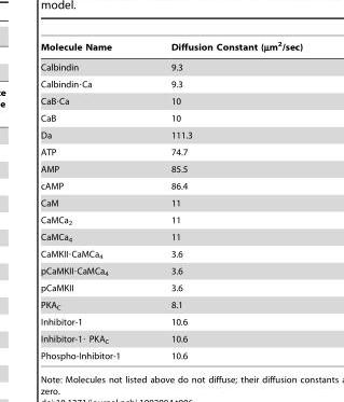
<table><thead><tr><td>Molecule Name</td><td>Diffusion Constant (µm<sup>2</sup>/sec)</td></tr></thead><tbody><tr><td>Calbindin</td><td>9.3</td></tr><tr><td>Calbindin·Ca</td><td>9.3</td></tr><tr><td>CaB·Ca</td><td>10</td></tr><tr><td>CaB</td><td>10</td></tr><tr><td>Da</td><td>111.3</td></tr><tr><td>ATP</td><td>74.7</td></tr><tr><td>AMP</td><td>85.5</td></tr><tr><td>cAMP</td><td>86.4</td></tr><tr><td>CaM</td><td>11</td></tr><tr><td>CaMCa<sub>2</sub></td><td>11</td></tr><tr><td>CaMCa<sub>4</sub></td><td>11</td></tr><tr><td>CaMKII·CaMCa<sub>4</sub></td><td>3.6</td></tr><tr><td>pCaMKII·CaMCa<sub>4</sub></td><td>3.6</td></tr><tr><td>pCaMKII</td><td>3.6</td></tr><tr><td>PKA<sub>C</sub></td><td>8.1</td></tr><tr><td>Inhibitor-1</td><td>10.6</td></tr><tr><td>Inhibitor-1· PKA<sub>C</sub></td><td>10.6</td></tr><tr><td>Phospho-Inhibitor-1</td><td>10.6</td></tr></tbody></table>